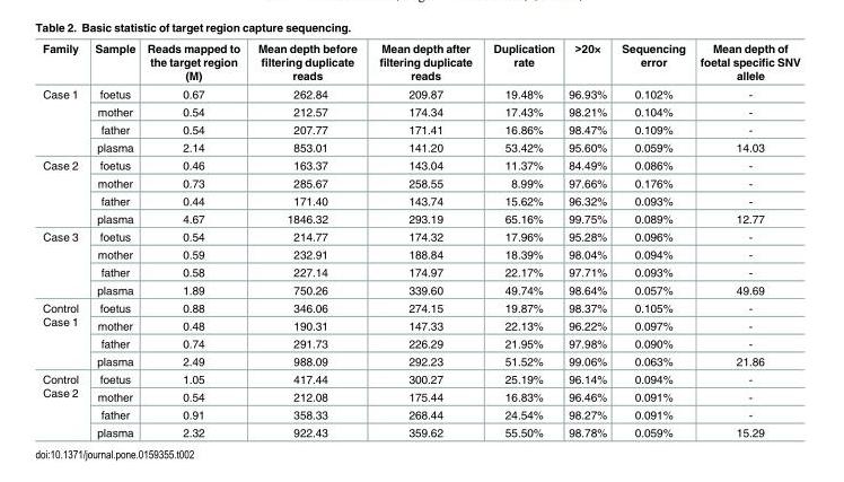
<table><thead><tr><td>Family</td><td>Sample</td><td>Reads mapped to the target region (M)</td><td>Mean depth before filtering duplicate reads</td><td>Mean depth after filtering duplicate reads</td><td>Duplication rate</td><td>&gt;20×</td><td>Sequencing error</td><td>Mean depth of foetal specific SNV allele</td></tr></thead><tbody><tr><td rowspan="4">Case 1</td><td>foetus</td><td>0.67</td><td>262.84</td><td>209.87</td><td>19.48%</td><td>96.93%</td><td>0.102%</td><td>-</td></tr><tr><td>mother</td><td>0.54</td><td>212.57</td><td>174.34</td><td>17.43%</td><td>98.21%</td><td>0.104%</td><td>-</td></tr><tr><td>father</td><td>0.54</td><td>207.77</td><td>171.41</td><td>16.86%</td><td>98.47%</td><td>0.109%</td><td>-</td></tr><tr><td>plasma</td><td>2.14</td><td>853.01</td><td>141.20</td><td>53.42%</td><td>95.60%</td><td>0.059%</td><td>14.03</td></tr><tr><td rowspan="4">Case 2</td><td>foetus</td><td>0.46</td><td>163.37</td><td>143.04</td><td>11.37%</td><td>84.49%</td><td>0.086%</td><td>-</td></tr><tr><td>mother</td><td>0.73</td><td>285.67</td><td>258.55</td><td>8.99%</td><td>97.66%</td><td>0.176%</td><td>-</td></tr><tr><td>father</td><td>0.44</td><td>171.40</td><td>143.74</td><td>15.62%</td><td>96.32%</td><td>0.093%</td><td>-</td></tr><tr><td>plasma</td><td>4.67</td><td>1846.32</td><td>293.19</td><td>65.16%</td><td>99.75%</td><td>0.089%</td><td>12.77</td></tr><tr><td rowspan="4">Case 3</td><td>foetus</td><td>0.54</td><td>214.77</td><td>174.32</td><td>17.96%</td><td>95.28%</td><td>0.096%</td><td>-</td></tr><tr><td>mother</td><td>0.59</td><td>232.91</td><td>188.84</td><td>18.39%</td><td>98.04%</td><td>0.094%</td><td>-</td></tr><tr><td>father</td><td>0.58</td><td>227.14</td><td>174.97</td><td>22.17%</td><td>97.71%</td><td>0.093%</td><td>-</td></tr><tr><td>plasma</td><td>1.89</td><td>750.26</td><td>339.60</td><td>49.74%</td><td>98.64%</td><td>0.057%</td><td>49.69</td></tr><tr><td rowspan="4">Control Case 1</td><td>foetus</td><td>0.88</td><td>346.06</td><td>274.15</td><td>19.87%</td><td>98.37%</td><td>0.105%</td><td>-</td></tr><tr><td>mother</td><td>0.48</td><td>190.31</td><td>147.33</td><td>22.13%</td><td>96.22%</td><td>0.097%</td><td>-</td></tr><tr><td>father</td><td>0.74</td><td>291.73</td><td>226.29</td><td>21.95%</td><td>97.98%</td><td>0.090%</td><td>-</td></tr><tr><td>plasma</td><td>2.49</td><td>988.09</td><td>292.23</td><td>51.52%</td><td>99.06%</td><td>0.063%</td><td>21.86</td></tr><tr><td rowspan="4">Control Case 2</td><td>foetus</td><td>1.05</td><td>417.44</td><td>300.27</td><td>25.19%</td><td>96.14%</td><td>0.094%</td><td>-</td></tr><tr><td>mother</td><td>0.54</td><td>212.08</td><td>175.44</td><td>16.83%</td><td>96.46%</td><td>0.091%</td><td>-</td></tr><tr><td>father</td><td>0.91</td><td>358.33</td><td>268.44</td><td>24.54%</td><td>98.27%</td><td>0.091%</td><td>-</td></tr><tr><td>plasma</td><td>2.32</td><td>922.43</td><td>359.62</td><td>55.50%</td><td>98.78%</td><td>0.059%</td><td>15.29</td></tr></tbody></table>